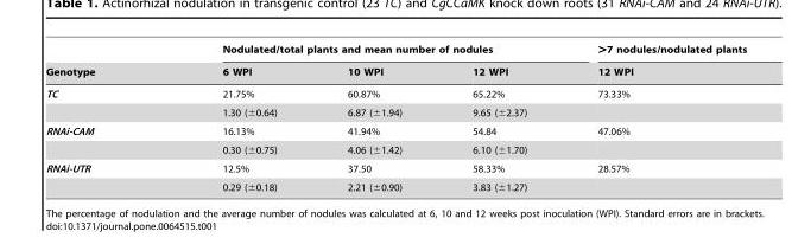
<table><thead><tr><td rowspan="2">Genotype</td><td colspan="3">Nodulated/total plants and mean number of nodules</td><td rowspan="2">&gt;7 nodules/nodulated plants 12 WPI</td></tr><tr><td>6 WPI</td><td>10 WPI</td><td>12 WPI</td></tr></thead><tbody><tr><td rowspan="2">TC</td><td>21.75%</td><td>60.87%</td><td>65.22%</td><td>73.33%</td></tr><tr><td>1.30 (±0.64)</td><td>6.87 (±1.94)</td><td>9.65 (±2.37)</td><td></td></tr><tr><td rowspan="2">RNAi-CAM</td><td>16.13%</td><td>41.94%</td><td>54.84</td><td>47.06%</td></tr><tr><td>0.30 (±0.75)</td><td>4.06 (±1.42)</td><td>6.10 (±1.70)</td><td></td></tr><tr><td rowspan="2">RNAi-UTR</td><td>12.5%</td><td>37.50</td><td>58.33%</td><td>28.57%</td></tr><tr><td>0.29 (±0.18)</td><td>2.21 (±0.90)</td><td>3.83 (±1.27)</td><td></td></tr></tbody></table>